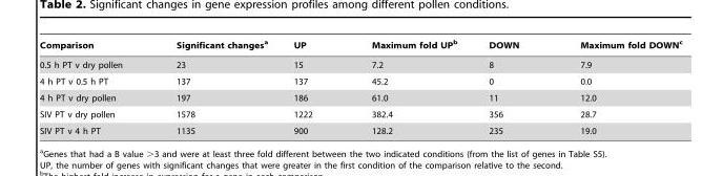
<table><thead><tr><td>Comparison</td><td>Significant changes<sup>a</sup></td><td>UP</td><td>Maximum fold UP<sup>b</sup></td><td>DOWN</td><td>Maximum fold DOWN<sup>c</sup></td></tr></thead><tbody><tr><td>0.5 h PT v dry pollen</td><td>23</td><td>15</td><td>7.2</td><td>8</td><td>7.9</td></tr><tr><td>4 h PT v 0.5 h PT</td><td>137</td><td>137</td><td>45.2</td><td>0</td><td>0.0</td></tr><tr><td>4 h PT v dry pollen</td><td>197</td><td>186</td><td>61.0</td><td>11</td><td>12.0</td></tr><tr><td>SIV PT v dry pollen</td><td>1578</td><td>1222</td><td>382.4</td><td>356</td><td>28.7</td></tr><tr><td>SIV PT v 4 h PT</td><td>1135</td><td>900</td><td>128.2</td><td>235</td><td>19.0</td></tr></tbody></table>